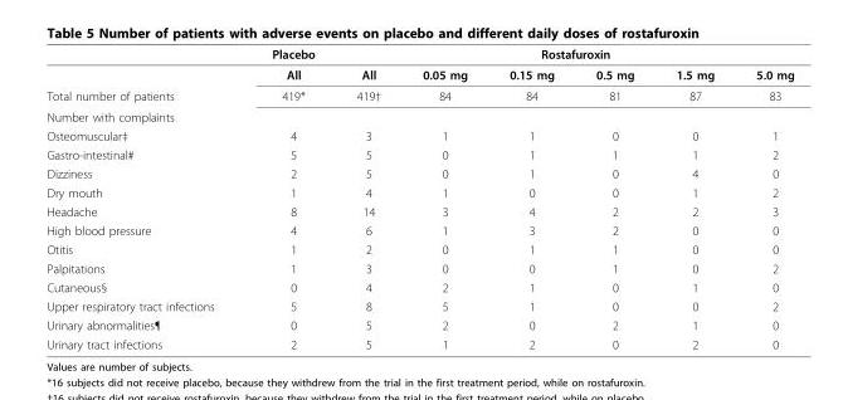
<table><thead><tr><td rowspan="2"></td><td rowspan="2">Placebo All</td><td colspan="6">Rostafuroxin</td></tr><tr><td>All</td><td>0.05 mg</td><td>0.15 mg</td><td>0.5 mg</td><td>1.5 mg</td><td>5.0 mg</td></tr></thead><tbody><tr><td>Total number of patients</td><td>419*</td><td>419†</td><td>84</td><td>84</td><td>81</td><td>87</td><td>83</td></tr><tr><td colspan="8">Number with complaints</td></tr><tr><td>Osteomuscular‡</td><td>4</td><td>3</td><td>1</td><td>1</td><td>0</td><td>0</td><td>1</td></tr><tr><td>Gastro-intestinal#</td><td>5</td><td>5</td><td>0</td><td>1</td><td>1</td><td>1</td><td>2</td></tr><tr><td>Dizziness</td><td>2</td><td>5</td><td>0</td><td>1</td><td>0</td><td>4</td><td>0</td></tr><tr><td>Dry mouth</td><td>1</td><td>4</td><td>1</td><td>0</td><td>0</td><td>1</td><td>2</td></tr><tr><td>Headache</td><td>8</td><td>14</td><td>3</td><td>4</td><td>2</td><td>2</td><td>3</td></tr><tr><td>High blood pressure</td><td>4</td><td>6</td><td>1</td><td>3</td><td>2</td><td>0</td><td>0</td></tr><tr><td>Otitis</td><td>1</td><td>2</td><td>0</td><td>1</td><td>1</td><td>0</td><td>0</td></tr><tr><td>Palpitations</td><td>1</td><td>3</td><td>0</td><td>0</td><td>1</td><td>0</td><td>2</td></tr><tr><td>Cutaneous§</td><td>0</td><td>4</td><td>2</td><td>1</td><td>0</td><td>1</td><td>0</td></tr><tr><td>Upper respiratory tract infections</td><td>5</td><td>8</td><td>5</td><td>1</td><td>0</td><td>0</td><td>2</td></tr><tr><td>Urinary abnormalities¶</td><td>0</td><td>5</td><td>2</td><td>0</td><td>2</td><td>1</td><td>0</td></tr><tr><td>Urinary tract infections</td><td>2</td><td>5</td><td>1</td><td>2</td><td>0</td><td>2</td><td>0</td></tr></tbody></table>